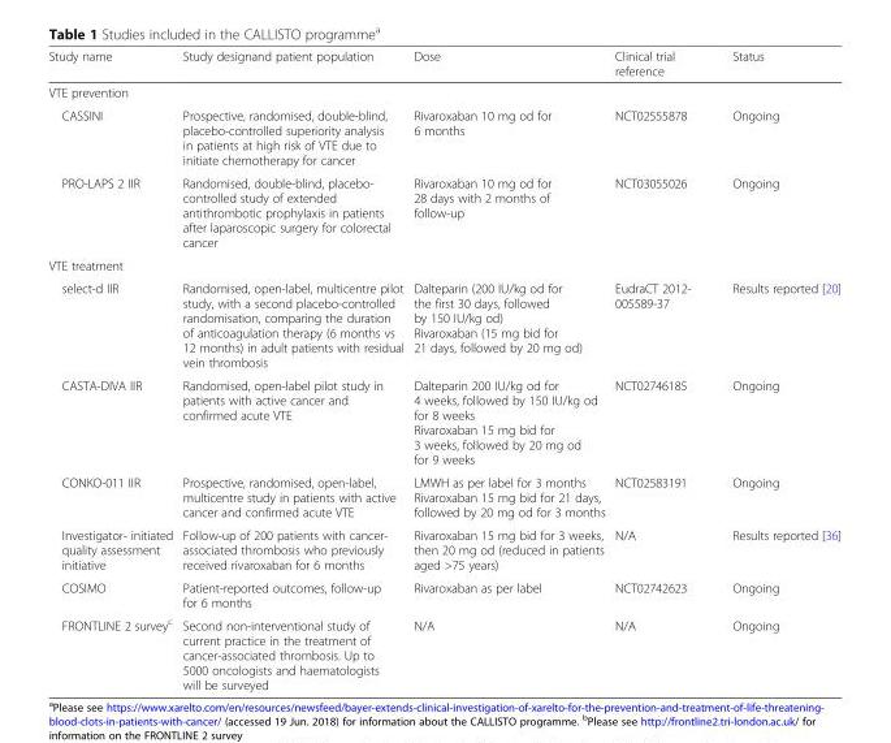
<table><thead><tr><td>Study name</td><td>Study designand patient population</td><td>Dose</td><td>Clinical trial reference</td><td>Status</td></tr></thead><tbody><tr><td colspan="5">VTE prevention</td></tr><tr><td>CASSINI</td><td>Prospective, randomised, double-blind, placebo-controlled superiority analysis in patients at high risk of VTE due to initiate chemotherapy for cancer</td><td>Rivaroxaban 10 mg od for 6 months</td><td>NCT02555878</td><td>Ongoing</td></tr><tr><td>PRO-LAPS 2 IIR</td><td>Randomised, double-blind, placebo- controlled study of extended antithrombotic prophylaxis in patients after laparoscopic surgery for colorectal cancer</td><td>Rivaroxaban 10 mg od for 28 days with 2 months of follow-up</td><td>NCT03055026</td><td>Ongoing</td></tr><tr><td colspan="5">VTE treatment</td></tr><tr><td>select-d IIR</td><td>Randomised, open-label, multicentre pilot study, with a second placebo-controlled randomisation, comparing the duration of anticoagulation therapy (6 months vs 12 months) in adult patients with residual vein thrombosis</td><td>Dalteparin (200 IU/kg od for the first 30 days, followed by 150 IU/kg od) Rivaroxaban (15 mg bid for 21 days, followed by 20 mg od)</td><td>EudraCT 2012- 005589-37</td><td>Results reported [20]</td></tr><tr><td>CASTA-DIVA IIR</td><td>Randomised, open-label pilot study in patients with active cancer and confirmed acute VTE</td><td>Dalteparin 200 IU/kg od for 4 weeks, followed by 150 IU/kg od for 8 weeks Rivaroxaban 15 mg bid for 3 weeks, followed by 20 mg od for 9 weeks</td><td>NCT02746185</td><td>Ongoing</td></tr><tr><td>CONKO-011 IIR</td><td>Prospective, randomised, open-label, multicentre study in patients with active cancer and confirmed acute VTE</td><td>LMWH as per label for 3 months Rivaroxaban 15 mg bid for 21 days, followed by 20 mg od for 3 months</td><td>NCT02583191</td><td>Ongoing</td></tr><tr><td>Investigator- initiated quality assessment initiative</td><td>Follow-up of 200 patients with cancer- associated thrombosis who previously received rivaroxaban for 6 months</td><td>Rivaroxaban 15 mg bid for 3 weeks, then 20 mg od (reduced in patients aged &gt;75 years)</td><td>N/A</td><td>Results reported [36]</td></tr><tr><td>COSIMO</td><td>Patient-reported outcomes, follow-up for 6 months</td><td>Rivaroxaban as per label</td><td>NCT02742623</td><td>Ongoing</td></tr><tr><td>FRONTLINE 2 survey<sup>c</sup></td><td>Second non-interventional study of current practice in the treatment of cancer-associated thrombosis. Up to 5000 oncologists and haematologists will be surveyed</td><td>N/A</td><td>N/A</td><td>Ongoing</td></tr></tbody></table>